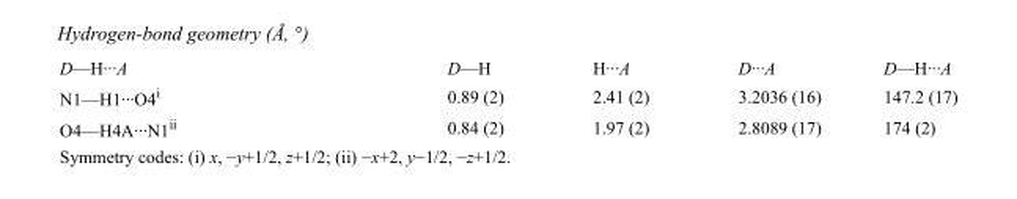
<table><tbody><tr><td>D—H···A</td><td>D—H</td><td>H···A</td><td>D···A</td><td>D—H···A</td></tr><tr><td>N1—H1···O4<sup>i</sup></td><td>0.89 (2)</td><td>2.41 (2)</td><td>3.2036 (16)</td><td>147.2 (17)</td></tr><tr><td>O4—H4A···N1<sup>ii</sup></td><td>0.84 (2)</td><td>1.97 (2)</td><td>2.8089 (17)</td><td>174 (2)</td></tr></tbody></table>